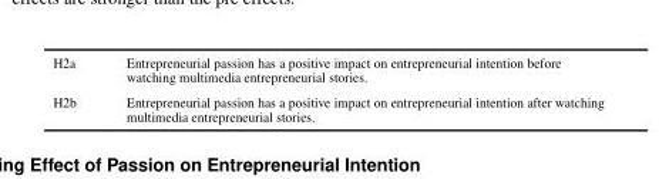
<table><tbody><tr><td>H2a</td><td>Entrepreneurial passion has a positive impact on entrepreneurial intention before watching multimedia entrepreneurial stories.</td></tr><tr><td>H2b</td><td>Entrepreneurial passion has a positive impact on entrepreneurial intention after watching multimedia entrepreneurial stories.</td></tr></tbody></table>